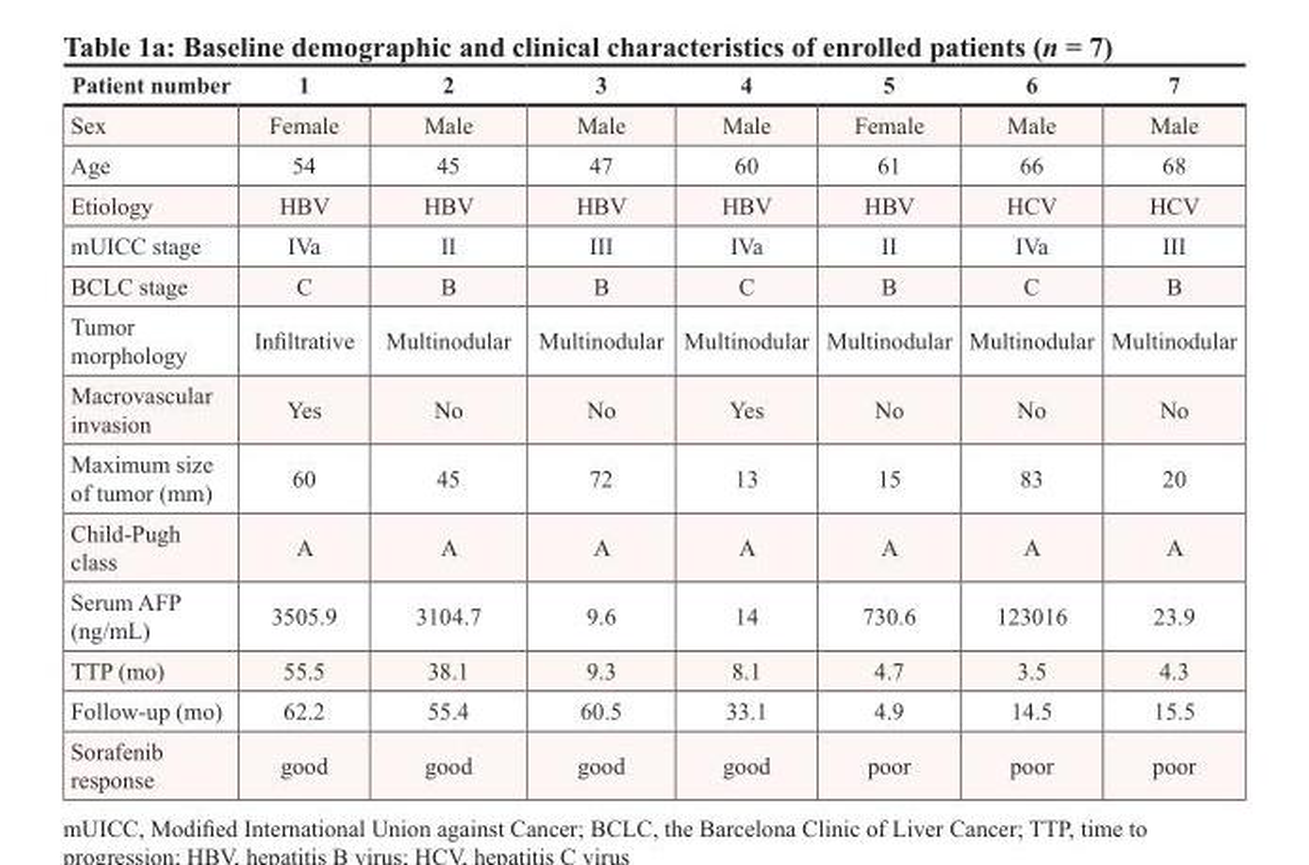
<table><thead><tr><td>Patient number</td><td>1</td><td>2</td><td>3</td><td>4</td><td>5</td><td>6</td><td>7</td></tr></thead><tbody><tr><td>Sex</td><td>Female</td><td>Male</td><td>Male</td><td>Male</td><td>Female</td><td>Male</td><td>Male</td></tr><tr><td>Age</td><td>54</td><td>45</td><td>47</td><td>60</td><td>61</td><td>66</td><td>68</td></tr><tr><td>Etiology</td><td>HBV</td><td>HBV</td><td>HBV</td><td>HBV</td><td>HBV</td><td>HCV</td><td>HCV</td></tr><tr><td>mUICC stage</td><td>IVa</td><td>II</td><td>III</td><td>IVa</td><td>II</td><td>IVa</td><td>III</td></tr><tr><td>BCLC stage</td><td>C</td><td>B</td><td>B</td><td>C</td><td>B</td><td>C</td><td>B</td></tr><tr><td>Tumor morphology</td><td>Infiltrative</td><td>Multinodular</td><td>Multinodular</td><td>Multinodular</td><td>Multinodular</td><td>Multinodular</td><td>Multinodular</td></tr><tr><td>Macrovascular invasion</td><td>Yes</td><td>No</td><td>No</td><td>Yes</td><td>No</td><td>No</td><td>No</td></tr><tr><td>Maximum size of tumor (mm)</td><td>60</td><td>45</td><td>72</td><td>13</td><td>15</td><td>83</td><td>20</td></tr><tr><td>Child-Pugh class</td><td>A</td><td>A</td><td>A</td><td>A</td><td>A</td><td>A</td><td>A</td></tr><tr><td>Serum AFP (ng/mL)</td><td>3505.9</td><td>3104.7</td><td>9.6</td><td>14</td><td>730.6</td><td>123016</td><td>23.9</td></tr><tr><td>TTP (mo)</td><td>55.5</td><td>38.1</td><td>9.3</td><td>8.1</td><td>4.7</td><td>3.5</td><td>4.3</td></tr><tr><td>Follow-up (mo)</td><td>62.2</td><td>55.4</td><td>60.5</td><td>33.1</td><td>4.9</td><td>14.5</td><td>15.5</td></tr><tr><td>Sorafenib response</td><td>good</td><td>good</td><td>good</td><td>good</td><td>poor</td><td>poor</td><td>poor</td></tr></tbody></table>